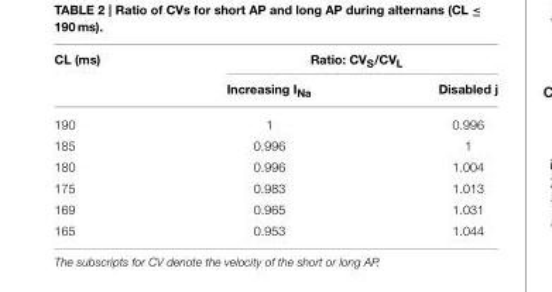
<table><thead><tr><td rowspan="2">CL (ms)</td><td colspan="2">Ratio: CV<sub>S</sub>/CV<sub>L</sub></td></tr><tr><td>Increasing I<sub>Na</sub></td><td>Disabled j</td></tr></thead><tbody><tr><td>190</td><td>1</td><td>0.996</td></tr><tr><td>185</td><td>0.996</td><td>1</td></tr><tr><td>180</td><td>0.996</td><td>1.004</td></tr><tr><td>175</td><td>0.983</td><td>1.013</td></tr><tr><td>169</td><td>0.965</td><td>1.031</td></tr><tr><td>165</td><td>0.953</td><td>1.044</td></tr></tbody></table>